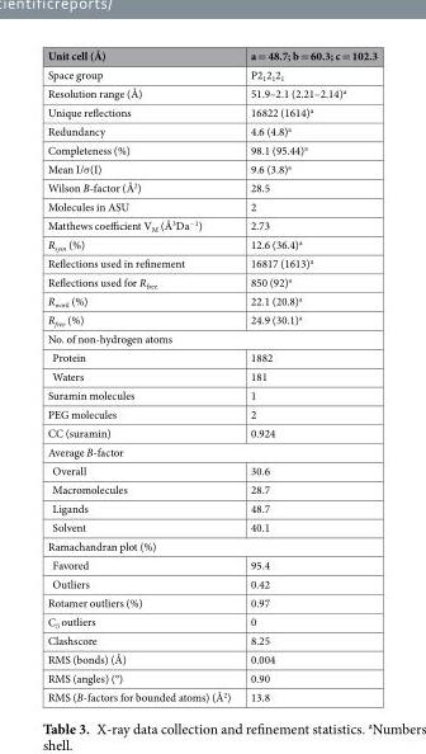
<table><thead><tr><td>Unit cell (Å)</td><td>a = 48.7; b = 60.3; c = 102.3</td></tr></thead><tbody><tr><td>Space group</td><td>P2<sub>1</sub>2<sub>1</sub>2<sub>1</sub></td></tr><tr><td>Resolution range (Å)</td><td>51.9–2.1 (2.21–2.14)<sup>a</sup></td></tr><tr><td>Unique reflections</td><td>16822 (1614)<sup>a</sup></td></tr><tr><td>Redundancy</td><td>4.6 (4.8)<sup>a</sup></td></tr><tr><td>Completeness (%)</td><td>98.1 (95.44)<sup>a</sup></td></tr><tr><td>Mean I/σ(I)</td><td>9.6 (3.8)<sup>a</sup></td></tr><tr><td>Wilson B-factor (Å<sup>2</sup>)</td><td>28.5</td></tr><tr><td>Molecules in ASU</td><td>2</td></tr><tr><td>Matthews coefficient V<sub>M</sub> (Å<sup>3</sup>Da<sup>−1</sup>)</td><td>2.73</td></tr><tr><td>R<sub>sym</sub> (%)</td><td>12.6 (36.4)<sup>a</sup></td></tr><tr><td>Reflections used in refinement</td><td>16817 (1613)<sup>a</sup></td></tr><tr><td>Reflections used for R<sub>free</sub></td><td>850 (92)<sup>a</sup></td></tr><tr><td>R<sub>work</sub> (%)</td><td>22.1 (20.8)<sup>a</sup></td></tr><tr><td>R<sub>free</sub> (%)</td><td>24.9 (30.1)<sup>a</sup></td></tr><tr><td colspan="2">No. of non-hydrogen atoms</td></tr><tr><td>Protein</td><td>1882</td></tr><tr><td>Waters</td><td>181</td></tr><tr><td>Suramin molecules</td><td>1</td></tr><tr><td>PEG molecules</td><td>2</td></tr><tr><td>CC (suramin)</td><td>0.924</td></tr><tr><td colspan="2">Average B-factor</td></tr><tr><td>Overall</td><td>30.6</td></tr><tr><td>Macromolecules</td><td>28.7</td></tr><tr><td>Ligands</td><td>48.7</td></tr><tr><td>Solvent</td><td>40.1</td></tr><tr><td colspan="2">Ramachandran plot (%)</td></tr><tr><td>Favored</td><td>95.4</td></tr><tr><td>Outliers</td><td>0.42</td></tr><tr><td>Rotamer outliers (%)</td><td>0.97</td></tr><tr><td>C<sub>β</sub> outliers</td><td>0</td></tr><tr><td>Clashscore</td><td>8.25</td></tr><tr><td>RMS (bonds) (Å)</td><td>0.004</td></tr><tr><td>RMS (angles) (°)</td><td>0.90</td></tr><tr><td>RMS (B-factors for bounded atoms) (Å<sup>2</sup>)</td><td>13.8</td></tr></tbody></table>